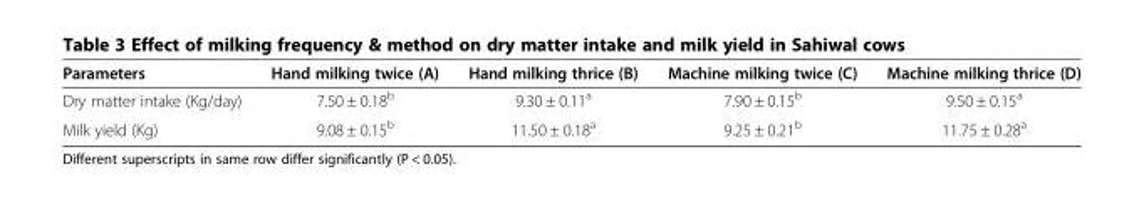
<table><thead><tr><td>Parameters</td><td>Hand milking twice (A)</td><td>Hand milking thrice (B)</td><td>Machine milking twice (C)</td><td>Machine milking thrice (D)</td></tr></thead><tbody><tr><td>Dry matter intake (Kg/day)</td><td>7.50 ± 0.18<sup>b</sup></td><td>9.30 ± 0.11<sup>a</sup></td><td>7.90 ± 0.15<sup>b</sup></td><td>9.50 ± 0.15<sup>a</sup></td></tr><tr><td>Milk yield (Kg)</td><td>9.08 ± 0.15<sup>b</sup></td><td>11.50 ± 0.18<sup>a</sup></td><td>9.25 ± 0.21<sup>b</sup></td><td>11.75 ± 0.28<sup>a</sup></td></tr></tbody></table>